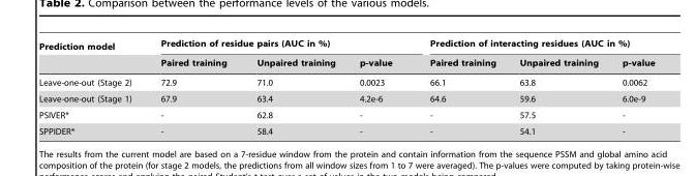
<table><thead><tr><td rowspan="2">Prediction model</td><td colspan="3">Prediction of residue pairs (AUC in %)</td><td colspan="3">Prediction of interacting residues (AUC in %)</td></tr><tr><td>Paired training</td><td>Unpaired training</td><td>p-value</td><td>Paired training</td><td>Unpaired training</td><td>p-value</td></tr></thead><tbody><tr><td>Leave-one-out (Stage 2)</td><td>72.9</td><td>71.0</td><td>0.0023</td><td>66.1</td><td>63.8</td><td>0.0062</td></tr><tr><td>Leave-one-out (Stage 1)</td><td>67.9</td><td>63.4</td><td>4.2e-6</td><td>64.6</td><td>59.6</td><td>6.0e-9</td></tr><tr><td>PSIVER*</td><td>-</td><td>62.8</td><td>-</td><td>-</td><td>57.5</td><td>-</td></tr><tr><td>SPPIDER*</td><td>-</td><td>58.4</td><td>-</td><td>-</td><td>54.1</td><td>-</td></tr></tbody></table>